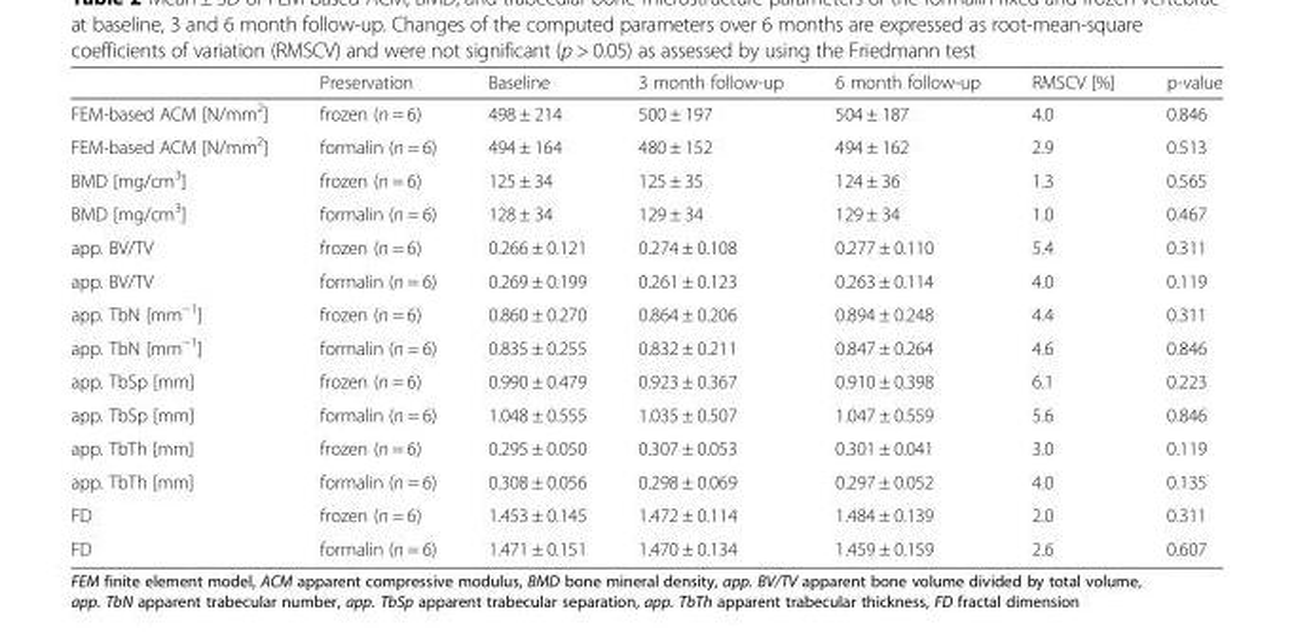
<table><thead><tr><td></td><td>Preservation</td><td>Baseline</td><td>3 month follow-up</td><td>6 month follow-up</td><td>RMSCV [%]</td><td>p-value</td></tr></thead><tbody><tr><td>FEM-based ACM [N/mm<sup>2</sup>]</td><td>frozen (n = 6)</td><td>498 ± 214</td><td>500 ± 197</td><td>504 ± 187</td><td>4.0</td><td>0.846</td></tr><tr><td>FEM-based ACM [N/mm<sup>2</sup>]</td><td>formalin (n = 6)</td><td>494 ± 164</td><td>480 ± 152</td><td>494 ± 162</td><td>2.9</td><td>0.513</td></tr><tr><td>BMD [mg/cm<sup>3</sup>]</td><td>frozen (n = 6)</td><td>125 ± 34</td><td>125 ± 35</td><td>124 ± 36</td><td>1.3</td><td>0.565</td></tr><tr><td>BMD [mg/cm<sup>3</sup>]</td><td>formalin (n = 6)</td><td>128 ± 34</td><td>129 ± 34</td><td>129 ± 34</td><td>1.0</td><td>0.467</td></tr><tr><td>app. BV/TV</td><td>frozen (n = 6)</td><td>0.266 ± 0.121</td><td>0.274 ± 0.108</td><td>0.277 ± 0.110</td><td>5.4</td><td>0.311</td></tr><tr><td>app. BV/TV</td><td>formalin (n = 6)</td><td>0.269 ± 0.199</td><td>0.261 ± 0.123</td><td>0.263 ± 0.114</td><td>4.0</td><td>0.119</td></tr><tr><td>app. TbN [mm<sup>−1</sup>]</td><td>frozen (n = 6)</td><td>0.860 ± 0.270</td><td>0.864 ± 0.206</td><td>0.894 ± 0.248</td><td>4.4</td><td>0.311</td></tr><tr><td>app. TbN [mm<sup>−1</sup>]</td><td>formalin (n = 6)</td><td>0.835 ± 0.255</td><td>0.832 ± 0.211</td><td>0.847 ± 0.264</td><td>4.6</td><td>0.846</td></tr><tr><td>app. TbSp [mm]</td><td>frozen (n = 6)</td><td>0.990 ± 0.479</td><td>0.923 ± 0.367</td><td>0.910 ± 0.398</td><td>6.1</td><td>0.223</td></tr><tr><td>app. TbSp [mm]</td><td>formalin (n = 6)</td><td>1.048 ± 0.555</td><td>1.035 ± 0.507</td><td>1.047 ± 0.559</td><td>5.6</td><td>0.846</td></tr><tr><td>app. TbTh [mm]</td><td>frozen (n = 6)</td><td>0.295 ± 0.050</td><td>0.307 ± 0.053</td><td>0.301 ± 0.041</td><td>3.0</td><td>0.119</td></tr><tr><td>app. TbTh [mm]</td><td>formalin (n = 6)</td><td>0.308 ± 0.056</td><td>0.298 ± 0.069</td><td>0.297 ± 0.052</td><td>4.0</td><td>0.135</td></tr><tr><td>FD</td><td>frozen (n = 6)</td><td>1.453 ± 0.145</td><td>1.472 ± 0.114</td><td>1.484 ± 0.139</td><td>2.0</td><td>0.311</td></tr><tr><td>FD</td><td>formalin (n = 6)</td><td>1.471 ± 0.151</td><td>1.470 ± 0.134</td><td>1.459 ± 0.159</td><td>2.6</td><td>0.607</td></tr></tbody></table>